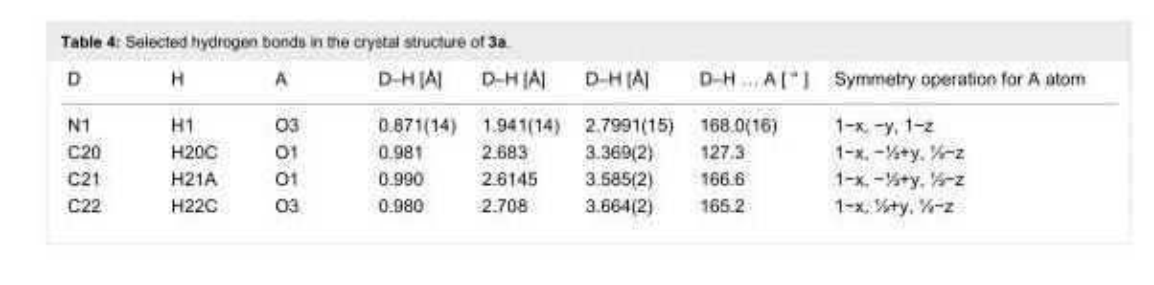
<table><tbody><tr><td>D</td><td>H</td><td>A</td><td>D–H [Å]</td><td>D–H [Å]</td><td>D–H [Å]</td><td>D–H … A [ ° ]</td><td>Symmetry operation for A atom</td></tr><tr><td>N1</td><td>H1</td><td>O3</td><td>0.871(14)</td><td>1.941(14)</td><td>2.7991(15)</td><td>168.0(16)</td><td>1−x, −y, 1−z</td></tr><tr><td>C20</td><td>H20C</td><td>O1</td><td>0.981</td><td>2.683</td><td>3.369(2)</td><td>127.3</td><td>1−x, −½+y, ½−z</td></tr><tr><td>C21</td><td>H21A</td><td>O1</td><td>0.990</td><td>2.6145</td><td>3.585(2)</td><td>166.6</td><td>1−x, −½+y, ½−z</td></tr><tr><td>C22</td><td>H22C</td><td>O3</td><td>0.980</td><td>2.708</td><td>3.664(2)</td><td>165.2</td><td>1−x, ½+y, ½−z</td></tr></tbody></table>